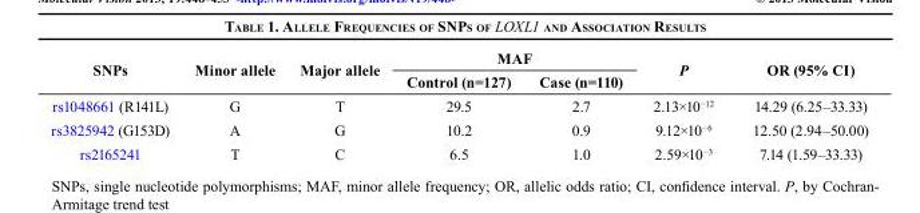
<table><thead><tr><td rowspan="2">SNPs</td><td rowspan="2">Minor allele</td><td rowspan="2">Major allele</td><td colspan="2">MAF</td><td rowspan="2">P</td><td rowspan="2">OR (95% CI)</td></tr><tr><td>Control (n=127)</td><td>Case (n=110)</td></tr></thead><tbody><tr><td>rs1048661 (R141L)</td><td>G</td><td>T</td><td>29.5</td><td>2.7</td><td>2.13×10<sup>−12</sup></td><td>14.29 (6.25–33.33)</td></tr><tr><td>rs3825942 (G153D)</td><td>A</td><td>G</td><td>10.2</td><td>0.9</td><td>9.12×10<sup>−6</sup></td><td>12.50 (2.94–50.00)</td></tr><tr><td>rs2165241</td><td>T</td><td>C</td><td>6.5</td><td>1.0</td><td>2.59×10<sup>−3</sup></td><td>7.14 (1.59–33.33)</td></tr></tbody></table>